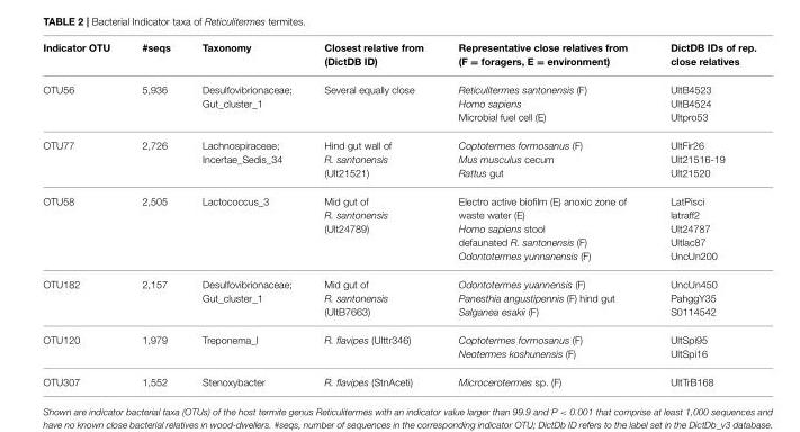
<table><thead><tr><td>Indicator OTU</td><td>#seqs</td><td>Taxonomy</td><td>Closest relative from (DictDB ID)</td><td>Representative close relatives from (F = foragers, E = environment)</td><td>DictDB IDs of rep. close relatives</td></tr></thead><tbody><tr><td>OTU56</td><td>5,936</td><td>Desulfovibrionaceae; Gut_cluster_1</td><td>Several equally close</td><td>Reticulitermes santonensis (F) Homo sapiens Microbial fuel cell (E)</td><td>UltB4523 UltB4524 Ultpro53</td></tr><tr><td>OTU77</td><td>2,726</td><td>Lachnospiraceae; Incertae_Sedis_34</td><td>Hind gut wall of R. santonensis (Ult21521)</td><td>Coptotermes formosanus (F) Mus musculus cecum Rattus gut</td><td>UltFir26 Ult21516-19 Ult21520</td></tr><tr><td>OTU58</td><td>2,505</td><td>Lactococcus_3</td><td>Mid gut of R. santonensis (Ult24789)</td><td>Electro active biofilm (E) anoxic zone of waste water (E) Homo sapiens stool defaunated R. santonensis (F) Odontotermes yunnanensis (F)</td><td>LatPisci latraff2 Ult24787 Ultlac87 UncUn200</td></tr><tr><td>OTU182</td><td>2,157</td><td>Desulfovibrionaceae; Gut_cluster_1</td><td>Mid gut of R. santonensis (UltB7663)</td><td>Odontotermes yuannensis (F) Panesthia angustipennis (F) hind gut Salganea esakii (F)</td><td>UncUn450 PahggY35 S0114542</td></tr><tr><td>OTU120</td><td>1,979</td><td>Treponema_I</td><td>R. flavipes (Ulttr346)</td><td>Coptotermes formosanus (F) Neotermes koshunensis (F)</td><td>UltSpi95 UltSpi16</td></tr><tr><td>OTU307</td><td>1,552</td><td>Stenoxybacter</td><td>R. flavipes (StnAceti)</td><td>Microcerotermes sp. (F)</td><td>UltTrB168</td></tr></tbody></table>